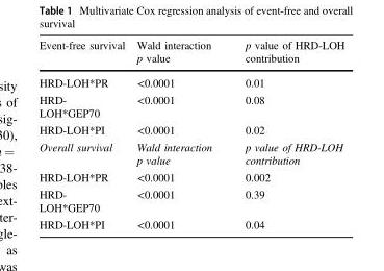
<table><thead><tr><td>Event-free survival</td><td>Wald interaction p value</td><td>p value of HRD-LOH contribution</td></tr></thead><tbody><tr><td>HRD-LOH*PR</td><td>&lt;0.0001</td><td>0.01</td></tr><tr><td>HRD- LOH*GEP70</td><td>&lt;0.0001</td><td>0.08</td></tr><tr><td>HRD-LOH*PI</td><td>&lt;0.0001</td><td>0.02</td></tr><tr><td>Overall survival</td><td>Wald interaction p value</td><td>p value of HRD-LOH contribution</td></tr><tr><td>HRD-LOH*PR</td><td>&lt;0.0001</td><td>0.002</td></tr><tr><td>HRD- LOH*GEP70</td><td>&lt;0.0001</td><td>0.39</td></tr><tr><td>HRD-LOH*PI</td><td>&lt;0.0001</td><td>0.04</td></tr></tbody></table>